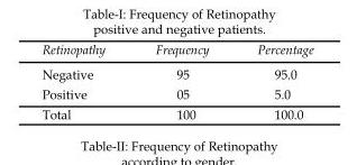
<table><thead><tr><td>Retinopathy</td><td>Frequency</td><td>Percentage</td></tr></thead><tbody><tr><td>Negative</td><td>95</td><td>95.0</td></tr><tr><td>Positive</td><td>05</td><td>5.0</td></tr><tr><td>Total</td><td>100</td><td>100.0</td></tr></tbody></table>